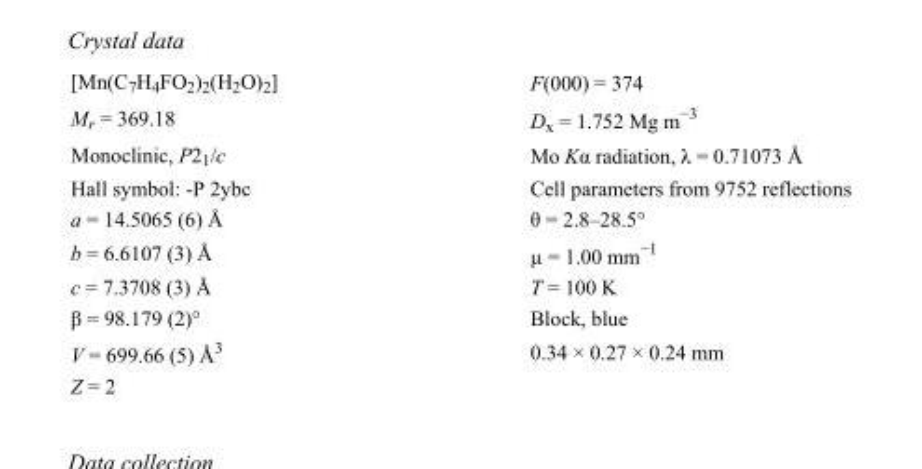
<table><tbody><tr><td>[Mn(C<sub>7</sub>H<sub>4</sub>FO<sub>2</sub>)<sub>2</sub>(H<sub>2</sub>O)<sub>2</sub>]</td><td>F(000) = 374</td></tr><tr><td>M<sub>r</sub> = 369.18</td><td>D<sub>x</sub> = 1.752 Mg m<sup>−3</sup></td></tr><tr><td>Monoclinic, P2<sub>1</sub>/c</td><td>Mo Kα radiation, λ = 0.71073 Å</td></tr><tr><td>Hall symbol: -P 2ybc</td><td>Cell parameters from 9752 reflections</td></tr><tr><td>a = 14.5065 (6) Å</td><td>θ = 2.8–28.5°</td></tr><tr><td>b = 6.6107 (3) Å</td><td>µ = 1.00 mm<sup>−1</sup></td></tr><tr><td>c = 7.3708 (3) Å</td><td>T = 100 K</td></tr><tr><td>β = 98.179 (2)°</td><td>Block, blue</td></tr><tr><td>V = 699.66 (5) Å<sup>3</sup></td><td>0.34 × 0.27 × 0.24 mm</td></tr><tr><td>Z = 2</td><td></td></tr></tbody></table>